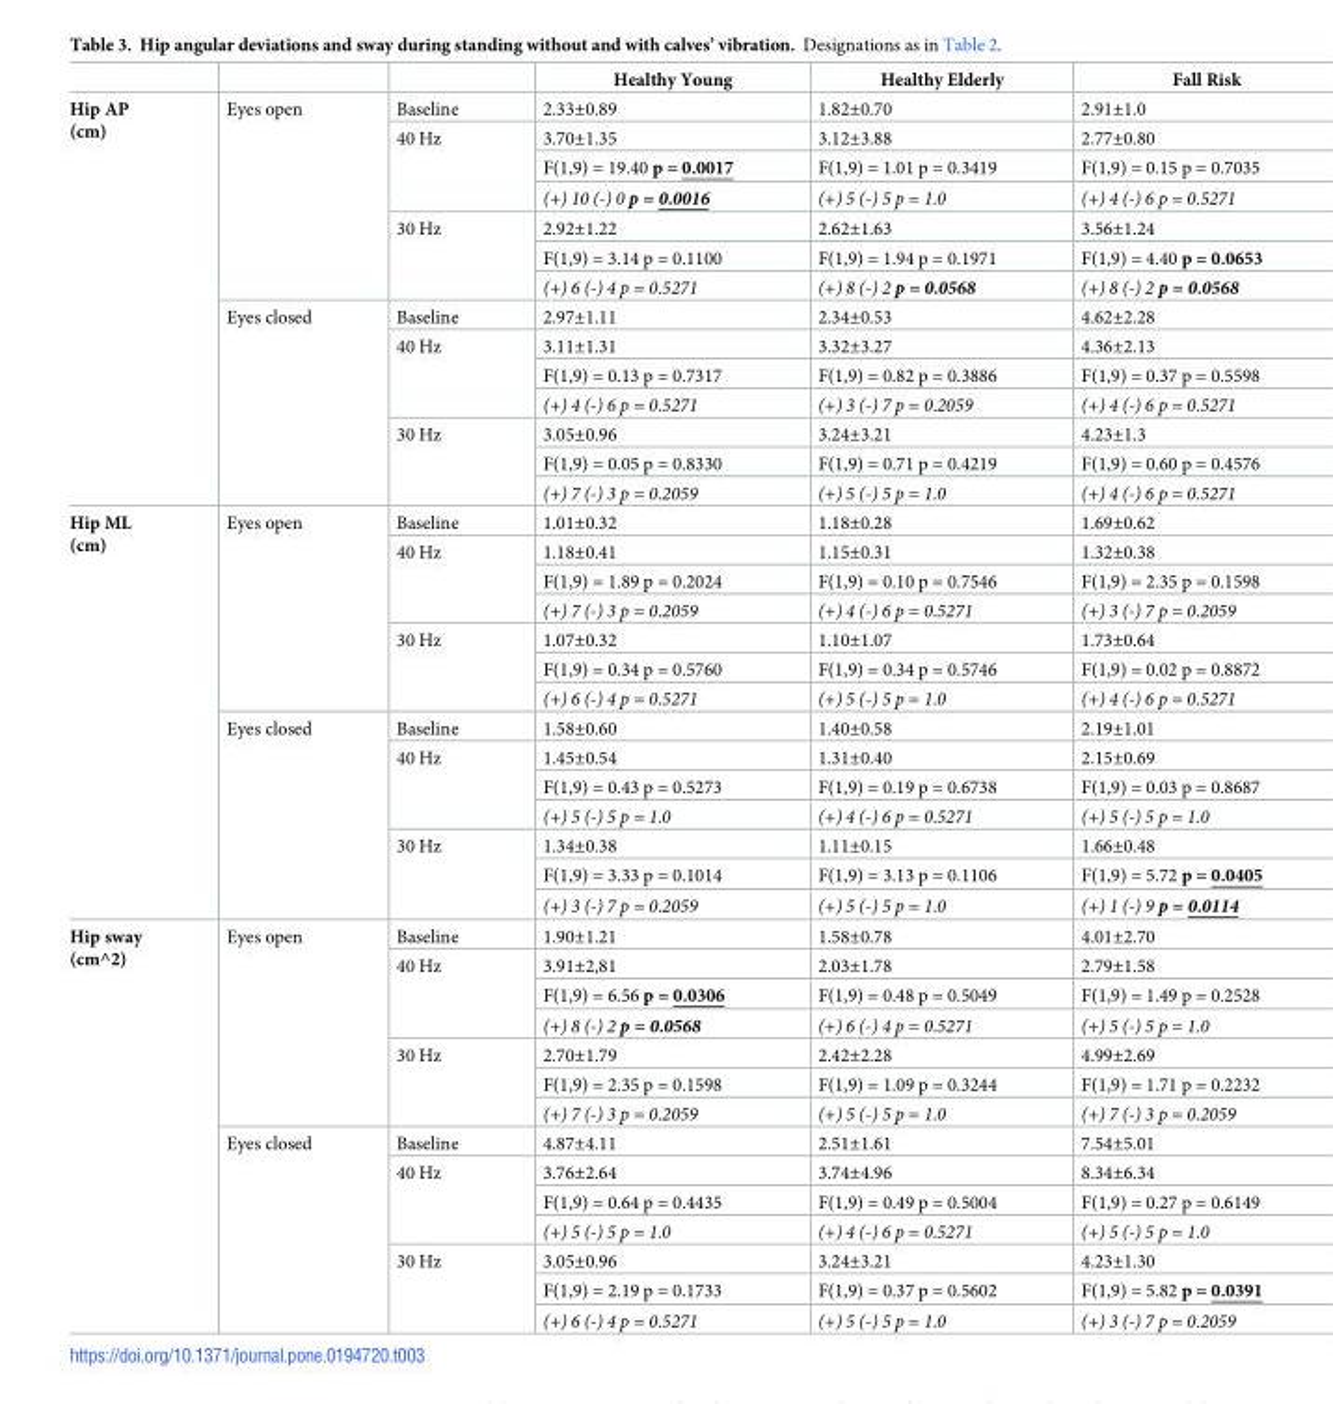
<table><thead><tr><td></td><td></td><td></td><td>Healthy Young</td><td>Healthy Elderly</td><td>Fall Risk</td></tr></thead><tbody><tr><td rowspan="14">Hip AP (cm)</td><td rowspan="7">Eyes open</td><td>Baseline</td><td>2.33±0.89</td><td>1.82±0.70</td><td>2.91±1.0</td></tr><tr><td rowspan="3">40 Hz</td><td>3.70±1.35</td><td>3.12±3.88</td><td>2.77±0.80</td></tr><tr><td>F(1,9) = 19.40 p = 0.0017</td><td>F(1,9) = 1.01 p = 0.3419</td><td>F(1,9) = 0.15 p = 0.7035</td></tr><tr><td>(+) 10 (-) 0 p = 0.0016</td><td>(+) 5 (-) 5 p = 1.0</td><td>(+) 4 (-) 6 p = 0.5271</td></tr><tr><td rowspan="3">30 Hz</td><td>2.92±1.22</td><td>2.62±1.63</td><td>3.56±1.24</td></tr><tr><td>F(1,9) = 3.14 p = 0.1100</td><td>F(1,9) = 1.94 p = 0.1971</td><td>F(1,9) = 4.40 p = 0.0653</td></tr><tr><td>(+) 6 (-) 4 p = 0.5271</td><td>(+) 8 (-) 2 p = 0.0568</td><td>(+) 8 (-) 2 p = 0.0568</td></tr><tr><td rowspan="7">Eyes closed</td><td>Baseline</td><td>2.97±1.11</td><td>2.34±0.53</td><td>4.62±2.28</td></tr><tr><td rowspan="3">40 Hz</td><td>3.11±1.31</td><td>3.32±3.27</td><td>4.36±2.13</td></tr><tr><td>F(1,9) = 0.13 p = 0.7317</td><td>F(1,9) = 0.82 p = 0.3886</td><td>F(1,9) = 0.37 p = 0.5598</td></tr><tr><td>(+) 4 (-) 6 p = 0.5271</td><td>(+) 3 (-) 7 p = 0.2059</td><td>(+) 4 (-) 6 p = 0.5271</td></tr><tr><td rowspan="3">30 Hz</td><td>3.05±0.96</td><td>3.24±3.21</td><td>4.23±1.3</td></tr><tr><td>F(1,9) = 0.05 p = 0.8330</td><td>F(1,9) = 0.71 p = 0.4219</td><td>F(1,9) = 0.60 p = 0.4576</td></tr><tr><td>(+) 7 (-) 3 p = 0.2059</td><td>(+) 5 (-) 5 p = 1.0</td><td>(+) 4 (-) 6 p = 0.5271</td></tr><tr><td rowspan="14">Hip ML (cm)</td><td rowspan="7">Eyes open</td><td>Baseline</td><td>1.01±0.32</td><td>1.18±0.28</td><td>1.69±0.62</td></tr><tr><td rowspan="3">40 Hz</td><td>1.18±0.41</td><td>1.15±0.31</td><td>1.32±0.38</td></tr><tr><td>F(1,9) = 1.89 p = 0.2024</td><td>F(1,9) = 0.10 p = 0.7546</td><td>F(1,9) = 2.35 p = 0.1598</td></tr><tr><td>(+) 7 (-) 3 p = 0.2059</td><td>(+) 4 (-) 6 p = 0.5271</td><td>(+) 3 (-) 7 p = 0.2059</td></tr><tr><td rowspan="3">30 Hz</td><td>1.07±0.32</td><td>1.10±1.07</td><td>1.73±0.64</td></tr><tr><td>F(1,9) = 0.34 p = 0.5760</td><td>F(1,9) = 0.34 p = 0.5746</td><td>F(1,9) = 0.02 p = 0.8872</td></tr><tr><td>(+) 6 (-) 4 p = 0.5271</td><td>(+) 5 (-) 5 p = 1.0</td><td>(+) 4 (-) 6 p = 0.5271</td></tr><tr><td rowspan="7">Eyes closed</td><td>Baseline</td><td>1.58±0.60</td><td>1.40±0.58</td><td>2.19±1.01</td></tr><tr><td rowspan="3">40 Hz</td><td>1.45±0.54</td><td>1.31±0.40</td><td>2.15±0.69</td></tr><tr><td>F(1,9) = 0.43 p = 0.5273</td><td>F(1,9) = 0.19 p = 0.6738</td><td>F(1,9) = 0.03 p = 0.8687</td></tr><tr><td>(+) 5 (-) 5 p = 1.0</td><td>(+) 4 (-) 6 p = 0.5271</td><td>(+) 5 (-) 5 p = 1.0</td></tr><tr><td rowspan="3">30 Hz</td><td>1.34±0.38</td><td>1.11±0.15</td><td>1.66±0.48</td></tr><tr><td>F(1,9) = 3.33 p = 0.1014</td><td>F(1,9) = 3.13 p = 0.1106</td><td>F(1,9) = 5.72 p = 0.0405</td></tr><tr><td>(+) 3 (-) 7 p = 0.2059</td><td>(+) 5 (-) 5 p = 1.0</td><td>(+) 1 (-) 9 p = 0.0114</td></tr><tr><td rowspan="14">Hip sway (cm^2)</td><td rowspan="7">Eyes open</td><td>Baseline</td><td>1.90±1.21</td><td>1.58±0.78</td><td>4.01±2.70</td></tr><tr><td rowspan="3">40 Hz</td><td>3.91±2,81</td><td>2.03±1.78</td><td>2.79±1.58</td></tr><tr><td>F(1,9) = 6.56 p = 0.0306</td><td>F(1,9) = 0.48 p = 0.5049</td><td>F(1,9) = 1.49 p = 0.2528</td></tr><tr><td>(+) 8 (-) 2 p = 0.0568</td><td>(+) 6 (-) 4 p = 0.5271</td><td>(+) 5 (-) 5 p = 1.0</td></tr><tr><td rowspan="3">30 Hz</td><td>2.70±1.79</td><td>2.42±2.28</td><td>4.99±2.69</td></tr><tr><td>F(1,9) = 2.35 p = 0.1598</td><td>F(1,9) = 1.09 p = 0.3244</td><td>F(1,9) = 1.71 p = 0.2232</td></tr><tr><td>(+) 7 (-) 3 p = 0.2059</td><td>(+) 5 (-) 5 p = 1.0</td><td>(+) 7 (-) 3 p = 0.2059</td></tr><tr><td rowspan="7">Eyes closed</td><td>Baseline</td><td>4.87±4.11</td><td>2.51±1.61</td><td>7.54±5.01</td></tr><tr><td rowspan="3">40 Hz</td><td>3.76±2.64</td><td>3.74±4.96</td><td>8.34±6.34</td></tr><tr><td>F(1,9) = 0.64 p = 0.4435</td><td>F(1,9) = 0.49 p = 0.5004</td><td>F(1,9) = 0.27 p = 0.6149</td></tr><tr><td>(+) 5 (-) 5 p = 1.0</td><td>(+) 4 (-) 6 p = 0.5271</td><td>(+) 5 (-) 5 p = 1.0</td></tr><tr><td rowspan="3">30 Hz</td><td>3.05±0.96</td><td>3.24±3.21</td><td>4.23±1.30</td></tr><tr><td>F(1,9) = 2.19 p = 0.1733</td><td>F(1,9) = 0.37 p = 0.5602</td><td>F(1,9) = 5.82 p = 0.0391</td></tr><tr><td>(+) 6 (-) 4 p = 0.5271</td><td>(+) 5 (-) 5 p = 1.0</td><td>(+) 3 (-) 7 p = 0.2059</td></tr></tbody></table>